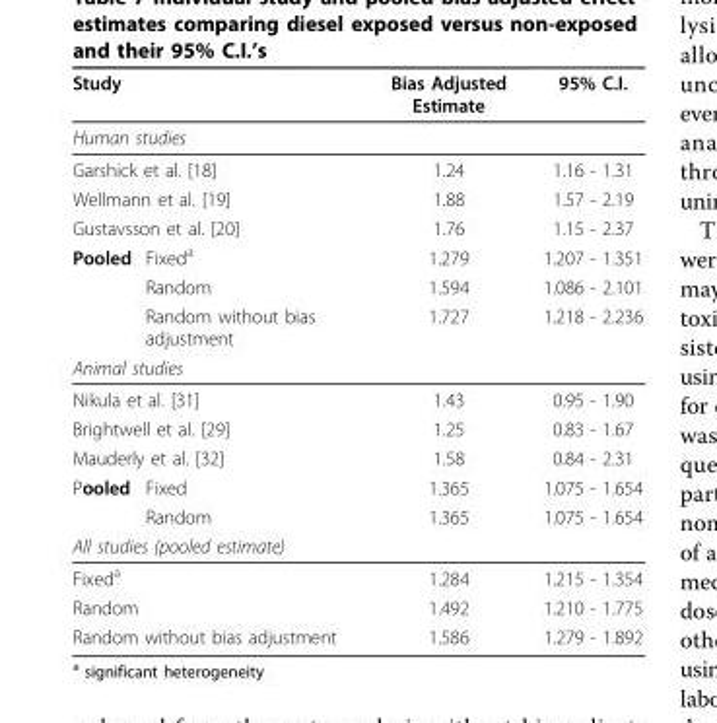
<table><thead><tr><td colspan="2">Study</td><td>Bias Adjusted Estimate</td><td>95% C.I.</td></tr></thead><tbody><tr><td colspan="4">Human studies</td></tr><tr><td colspan="2">Garshick et al. [18]</td><td>1.24</td><td>1.16 - 1.31</td></tr><tr><td colspan="2">Wellmann et al. [19]</td><td>1.88</td><td>1.57 - 2.19</td></tr><tr><td colspan="2">Gustavsson et al. [20]</td><td>1.76</td><td>1.15 - 2.37</td></tr><tr><td rowspan="3">Pooled</td><td>Fixed<sup>a</sup></td><td>1.279</td><td>1.207 - 1.351</td></tr><tr><td>Random</td><td>1.594</td><td>1.086 - 2.101</td></tr><tr><td>Random without bias adjustment</td><td>1.727</td><td>1.218 - 2.236</td></tr><tr><td colspan="4">Animal studies</td></tr><tr><td colspan="2">Nikula et al. [31]</td><td>1.43</td><td>0.95 - 1.90</td></tr><tr><td colspan="2">Brightwell et al. [29]</td><td>1.25</td><td>0.83 - 1.67</td></tr><tr><td colspan="2">Mauderly et al. [32]</td><td>1.58</td><td>0.84 - 2.31</td></tr><tr><td rowspan="2">Pooled</td><td>Fixed</td><td>1.365</td><td>1.075 - 1.654</td></tr><tr><td>Random</td><td>1.365</td><td>1.075 - 1.654</td></tr><tr><td colspan="4">All studies (pooled estimate)</td></tr><tr><td colspan="2">Fixed<sup>a</sup></td><td>1.284</td><td>1.215 - 1.354</td></tr><tr><td colspan="2">Random</td><td>1.492</td><td>1.210 - 1.775</td></tr><tr><td colspan="2">Random without bias adjustment</td><td>1.586</td><td>1.279 - 1.892</td></tr></tbody></table>